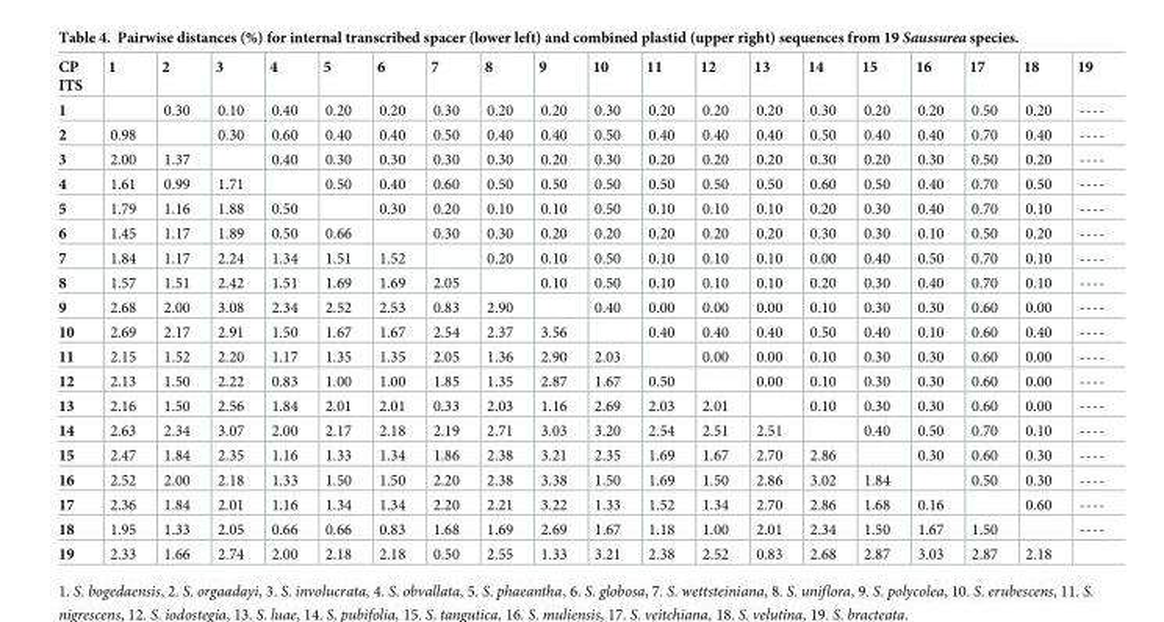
<table><thead><tr><td>CP ITS</td><td>1</td><td>2</td><td>3</td><td>4</td><td>5</td><td>6</td><td>7</td><td>8</td><td>9</td><td>10</td><td>11</td><td>12</td><td>13</td><td>14</td><td>15</td><td>16</td><td>17</td><td>18</td><td>19</td></tr></thead><tbody><tr><td>1</td><td></td><td>0.30</td><td>0.10</td><td>0.40</td><td>0.20</td><td>0.20</td><td>0.30</td><td>0.20</td><td>0.20</td><td>0.30</td><td>0.20</td><td>0.20</td><td>0.20</td><td>0.30</td><td>0.20</td><td>0.20</td><td>0.50</td><td>0.20</td><td>----</td></tr><tr><td>2</td><td>0.98</td><td></td><td>0.30</td><td>0.60</td><td>0.40</td><td>0.40</td><td>0.50</td><td>0.40</td><td>0.40</td><td>0.50</td><td>0.40</td><td>0.40</td><td>0.40</td><td>0.50</td><td>0.40</td><td>0.40</td><td>0.70</td><td>0.40</td><td>----</td></tr><tr><td>3</td><td>2.00</td><td>1.37</td><td></td><td>0.40</td><td>0.30</td><td>0.30</td><td>0.30</td><td>0.30</td><td>0.20</td><td>0.30</td><td>0.20</td><td>0.20</td><td>0.20</td><td>0.30</td><td>0.20</td><td>0.30</td><td>0.50</td><td>0.20</td><td>----</td></tr><tr><td>4</td><td>1.61</td><td>0.99</td><td>1.71</td><td></td><td>0.50</td><td>0.40</td><td>0.60</td><td>0.50</td><td>0.50</td><td>0.50</td><td>0.50</td><td>0.50</td><td>0.50</td><td>0.60</td><td>0.50</td><td>0.40</td><td>0.70</td><td>0.50</td><td>----</td></tr><tr><td>5</td><td>1.79</td><td>1.16</td><td>1.88</td><td>0.50</td><td></td><td>0.30</td><td>0.20</td><td>0.10</td><td>0.10</td><td>0.50</td><td>0.10</td><td>0.10</td><td>0.10</td><td>0.20</td><td>0.30</td><td>0.40</td><td>0.70</td><td>0.10</td><td>----</td></tr><tr><td>6</td><td>1.45</td><td>1.17</td><td>1.89</td><td>0.50</td><td>0.66</td><td></td><td>0.30</td><td>0.30</td><td>0.20</td><td>0.20</td><td>0.20</td><td>0.20</td><td>0.20</td><td>0.30</td><td>0.30</td><td>0.10</td><td>0.50</td><td>0.20</td><td>----</td></tr><tr><td>7</td><td>1.84</td><td>1.17</td><td>2.24</td><td>1.34</td><td>1.51</td><td>1.52</td><td></td><td>0.20</td><td>0.10</td><td>0.50</td><td>0.10</td><td>0.10</td><td>0.10</td><td>0.00</td><td>0.40</td><td>0.50</td><td>0.70</td><td>0.10</td><td>----</td></tr><tr><td>8</td><td>1.57</td><td>1.51</td><td>2.42</td><td>1.51</td><td>1.69</td><td>1.69</td><td>2.05</td><td></td><td>0.10</td><td>0.50</td><td>0.10</td><td>0.10</td><td>0.10</td><td>0.20</td><td>0.30</td><td>0.40</td><td>0.70</td><td>0.10</td><td>----</td></tr><tr><td>9</td><td>2.68</td><td>2.00</td><td>3.08</td><td>2.34</td><td>2.52</td><td>2.53</td><td>0.83</td><td>2.90</td><td></td><td>0.40</td><td>0.00</td><td>0.00</td><td>0.00</td><td>0.10</td><td>0.30</td><td>0.30</td><td>0.60</td><td>0.00</td><td>----</td></tr><tr><td>10</td><td>2.69</td><td>2.17</td><td>2.91</td><td>1.50</td><td>1.67</td><td>1.67</td><td>2.54</td><td>2.37</td><td>3.56</td><td></td><td>0.40</td><td>0.40</td><td>0.40</td><td>0.50</td><td>0.40</td><td>0.10</td><td>0.60</td><td>0.40</td><td>----</td></tr><tr><td>11</td><td>2.15</td><td>1.52</td><td>2.20</td><td>1.17</td><td>1.35</td><td>1.35</td><td>2.05</td><td>1.36</td><td>2.90</td><td>2.03</td><td></td><td>0.00</td><td>0.00</td><td>0.10</td><td>0.30</td><td>0.30</td><td>0.60</td><td>0.00</td><td>----</td></tr><tr><td>12</td><td>2.13</td><td>1.50</td><td>2.22</td><td>0.83</td><td>1.00</td><td>1.00</td><td>1.85</td><td>1.35</td><td>2.87</td><td>1.67</td><td>0.50</td><td></td><td>0.00</td><td>0.10</td><td>0.30</td><td>0.30</td><td>0.60</td><td>0.00</td><td>----</td></tr><tr><td>13</td><td>2.16</td><td>1.50</td><td>2.56</td><td>1.84</td><td>2.01</td><td>2.01</td><td>0.33</td><td>2.03</td><td>1.16</td><td>2.69</td><td>2.03</td><td>2.01</td><td></td><td>0.10</td><td>0.30</td><td>0.30</td><td>0.60</td><td>0.00</td><td>----</td></tr><tr><td>14</td><td>2.63</td><td>2.34</td><td>3.07</td><td>2.00</td><td>2.17</td><td>2.18</td><td>2.19</td><td>2.71</td><td>3.03</td><td>3.20</td><td>2.54</td><td>2.51</td><td>2.51</td><td></td><td>0.40</td><td>0.50</td><td>0.70</td><td>0.10</td><td>----</td></tr><tr><td>15</td><td>2.47</td><td>1.84</td><td>2.35</td><td>1.16</td><td>1.33</td><td>1.34</td><td>1.86</td><td>2.38</td><td>3.21</td><td>2.35</td><td>1.69</td><td>1.67</td><td>2.70</td><td>2.86</td><td></td><td>0.30</td><td>0.60</td><td>0.30</td><td>----</td></tr><tr><td>16</td><td>2.52</td><td>2.00</td><td>2.18</td><td>1.33</td><td>1.50</td><td>1.50</td><td>2.20</td><td>2.38</td><td>3.38</td><td>1.50</td><td>1.69</td><td>1.50</td><td>2.86</td><td>3.02</td><td>1.84</td><td></td><td>0.50</td><td>0.30</td><td>----</td></tr><tr><td>17</td><td>2.36</td><td>1.84</td><td>2.01</td><td>1.16</td><td>1.34</td><td>1.34</td><td>2.20</td><td>2.21</td><td>3.22</td><td>1.33</td><td>1.52</td><td>1.34</td><td>2.70</td><td>2.86</td><td>1.68</td><td>0.16</td><td></td><td>0.60</td><td>----</td></tr><tr><td>18</td><td>1.95</td><td>1.33</td><td>2.05</td><td>0.66</td><td>0.66</td><td>0.83</td><td>1.68</td><td>1.69</td><td>2.69</td><td>1.67</td><td>1.18</td><td>1.00</td><td>2.01</td><td>2.34</td><td>1.50</td><td>1.67</td><td>1.50</td><td></td><td>----</td></tr><tr><td>19</td><td>2.33</td><td>1.66</td><td>2.74</td><td>2.00</td><td>2.18</td><td>2.18</td><td>0.50</td><td>2.55</td><td>1.33</td><td>3.21</td><td>2.38</td><td>2.52</td><td>0.83</td><td>2.68</td><td>2.87</td><td>3.03</td><td>2.87</td><td>2.18</td><td></td></tr></tbody></table>